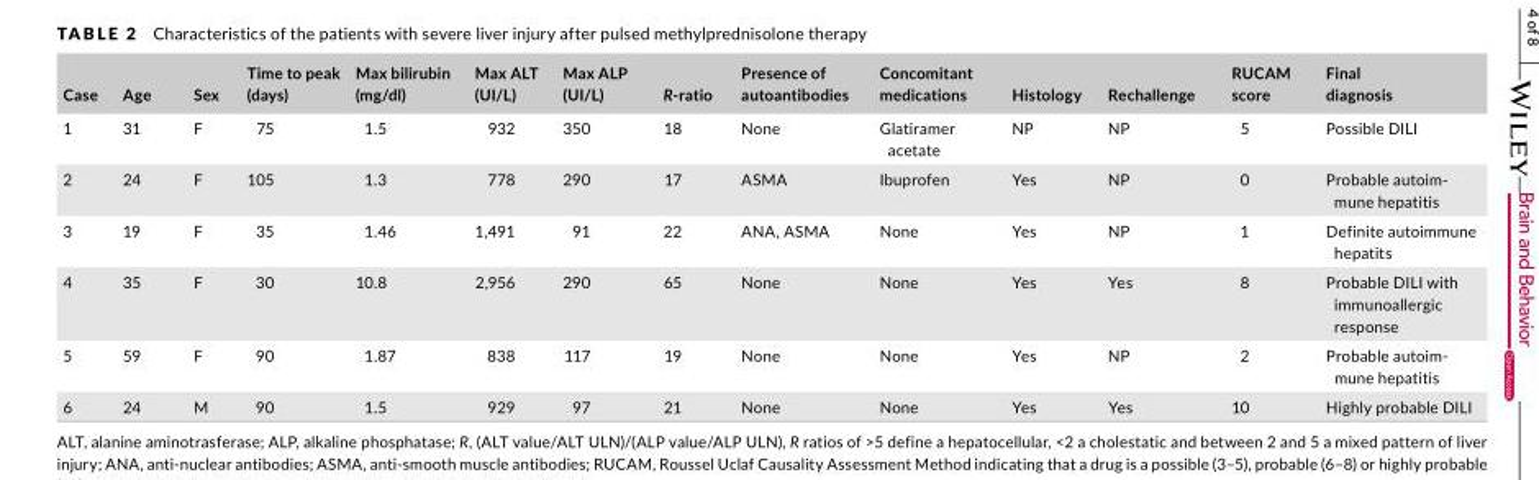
<table><thead><tr><td>Case</td><td>Age</td><td>Sex</td><td>Time to peak (days)</td><td>Max bilirubin (mg/dl)</td><td>Max ALT (UI/L)</td><td>Max ALP (UI/L)</td><td>R- ratio</td><td>Presence of autoantibodies</td><td>Concomitant medications</td><td>Histology</td><td>Rechallenge</td><td>RUCAM score</td><td>Final diagnosis</td></tr></thead><tbody><tr><td>1</td><td>31</td><td>F</td><td>75</td><td>1.5</td><td>932</td><td>350</td><td>18</td><td>None</td><td>Glatiramer acetate</td><td>NP</td><td>NP</td><td>5</td><td>Possible DILI</td></tr><tr><td>2</td><td>24</td><td>F</td><td>105</td><td>1.3</td><td>778</td><td>290</td><td>17</td><td>ASMA</td><td>Ibuprofen</td><td>Yes</td><td>NP</td><td>0</td><td>Probable autoim- mune hepatitis</td></tr><tr><td>3</td><td>19</td><td>F</td><td>35</td><td>1.46</td><td>1,491</td><td>91</td><td>22</td><td>ANA, ASMA</td><td>None</td><td>Yes</td><td>NP</td><td>1</td><td>Definite autoimmune hepatits</td></tr><tr><td>4</td><td>35</td><td>F</td><td>30</td><td>10.8</td><td>2,956</td><td>290</td><td>65</td><td>None</td><td>None</td><td>Yes</td><td>Yes</td><td>8</td><td>Probable DILI with immunoallergic response</td></tr><tr><td>5</td><td>59</td><td>F</td><td>90</td><td>1.87</td><td>838</td><td>117</td><td>19</td><td>None</td><td>None</td><td>Yes</td><td>NP</td><td>2</td><td>Probable autoim- mune hepatitis</td></tr><tr><td>6</td><td>24</td><td>M</td><td>90</td><td>1.5</td><td>929</td><td>97</td><td>21</td><td>None</td><td>None</td><td>Yes</td><td>Yes</td><td>10</td><td>Highly probable DILI</td></tr></tbody></table>